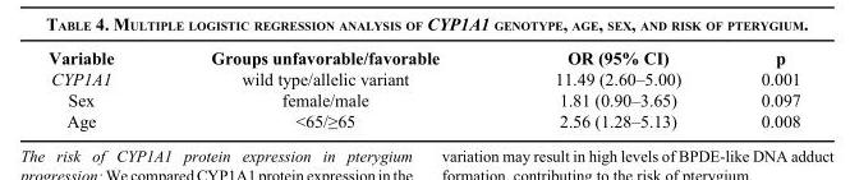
<table><thead><tr><td>Variable</td><td>Groups unfavorable/favorable</td><td>OR (95% CI)</td><td>p</td></tr></thead><tbody><tr><td>CYP1A1</td><td>wild type/allelic variant</td><td>11.49 (2.60–5.00)</td><td>0.001</td></tr><tr><td>Sex</td><td>female/male</td><td>1.81 (0.90–3.65)</td><td>0.097</td></tr><tr><td>Age</td><td>&lt;65/≥65</td><td>2.56 (1.28–5.13)</td><td>0.008</td></tr></tbody></table>